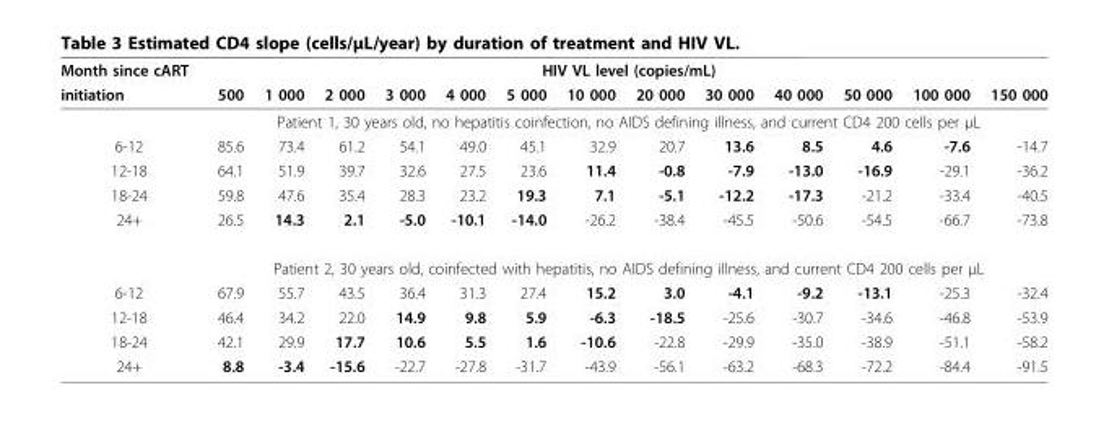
<table><thead><tr><td rowspan="2">Month since cART initiation</td><td colspan="13">HIV VL level (copies/mL)</td></tr><tr><td>500</td><td>1 000</td><td>2 000</td><td>3 000</td><td>4 000</td><td>5 000</td><td>10 000</td><td>20 000</td><td>30 000</td><td>40 000</td><td>50 000</td><td>100 000</td><td>150 000</td></tr></thead><tbody><tr><td></td><td colspan="13">Patient 1, 30 years old, no hepatitis coinfection, no AIDS defining illness, and current CD4 200 cells per μL</td></tr><tr><td>6-12</td><td>85.6</td><td>73.4</td><td>61.2</td><td>54.1</td><td>49.0</td><td>45.1</td><td>32.9</td><td>20.7</td><td>13.6</td><td>8.5</td><td>4.6</td><td>-7.6</td><td>-14.7</td></tr><tr><td>12-18</td><td>64.1</td><td>51.9</td><td>39.7</td><td>32.6</td><td>27.5</td><td>23.6</td><td>11.4</td><td>-0.8</td><td>-7.9</td><td>-13.0</td><td>-16.9</td><td>-29.1</td><td>-36.2</td></tr><tr><td>18-24</td><td>59.8</td><td>47.6</td><td>35.4</td><td>28.3</td><td>23.2</td><td>19.3</td><td>7.1</td><td>-5.1</td><td>-12.2</td><td>-17.3</td><td>-21.2</td><td>-33.4</td><td>-40.5</td></tr><tr><td rowspan="2">24+</td><td>26.5</td><td>14.3</td><td>2.1</td><td>-5.0</td><td>-10.1</td><td>-14.0</td><td>-26.2</td><td>-38.4</td><td>-45.5</td><td>-50.6</td><td>-54.5</td><td>-66.7</td><td>-73.8</td></tr><tr><td colspan="13">Patient 2, 30 years old, coinfected with hepatitis, no AIDS defining illness, and current CD4 200 cells per μL</td></tr><tr><td>6-12</td><td>67.9</td><td>55.7</td><td>43.5</td><td>36.4</td><td>31.3</td><td>27.4</td><td>15.2</td><td>3.0</td><td>-4.1</td><td>-9.2</td><td>-13.1</td><td>-25.3</td><td>-32.4</td></tr><tr><td>12-18</td><td>46.4</td><td>34.2</td><td>22.0</td><td>14.9</td><td>9.8</td><td>5.9</td><td>-6.3</td><td>-18.5</td><td>-25.6</td><td>-30.7</td><td>-34.6</td><td>-46.8</td><td>-53.9</td></tr><tr><td>18-24</td><td>42.1</td><td>29.9</td><td>17.7</td><td>10.6</td><td>5.5</td><td>1.6</td><td>-10.6</td><td>-22.8</td><td>-29.9</td><td>-35.0</td><td>-38.9</td><td>-51.1</td><td>-58.2</td></tr><tr><td>24+</td><td>8.8</td><td>-3.4</td><td>-15.6</td><td>-22.7</td><td>-27.8</td><td>-31.7</td><td>-43.9</td><td>-56.1</td><td>-63.2</td><td>-68.3</td><td>-72.2</td><td>-84.4</td><td>-91.5</td></tr></tbody></table>